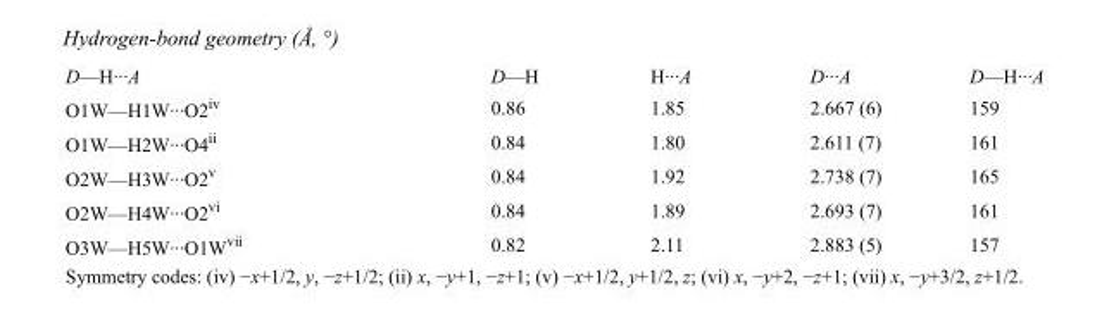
<table><tbody><tr><td>D—H···A</td><td>D—H</td><td>H···A</td><td>D···A</td><td>D—H···A</td></tr><tr><td>O1W—H1W···O2<sup>iv</sup></td><td>0.86</td><td>1.85</td><td>2.667 (6)</td><td>159</td></tr><tr><td>O1W—H2W···O4<sup>ii</sup></td><td>0.84</td><td>1.80</td><td>2.611 (7)</td><td>161</td></tr><tr><td>O2W—H3W···O2<sup>v</sup></td><td>0.84</td><td>1.92</td><td>2.738 (7)</td><td>165</td></tr><tr><td>O2W—H4W···O2<sup>vi</sup></td><td>0.84</td><td>1.89</td><td>2.693 (7)</td><td>161</td></tr><tr><td>O3W—H5W···O1W<sup>vii</sup></td><td>0.82</td><td>2.11</td><td>2.883 (5)</td><td>157</td></tr></tbody></table>